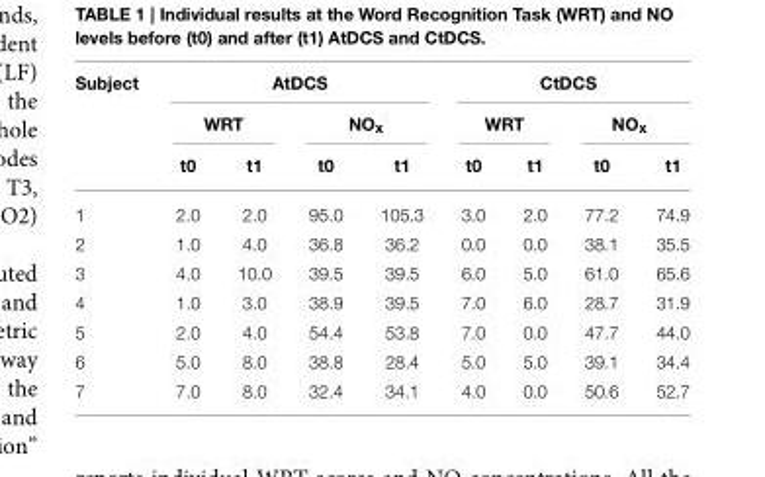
<table><thead><tr><td rowspan="3">Subject</td><td colspan="4">AtDCS</td><td colspan="4">CtDCS</td></tr><tr><td colspan="2">WRT</td><td colspan="2">NOx</td><td colspan="2">WRT</td><td colspan="2">NOx</td></tr><tr><td>t0</td><td>t1</td><td>t0</td><td>t1</td><td>t0</td><td>t1</td><td>t0</td><td>t1</td></tr></thead><tbody><tr><td>1</td><td>2.0</td><td>2.0</td><td>95.0</td><td>105.3</td><td>3.0</td><td>2.0</td><td>77.2</td><td>74.9</td></tr><tr><td>2</td><td>1.0</td><td>4.0</td><td>36.8</td><td>36.2</td><td>0.0</td><td>0.0</td><td>38.1</td><td>35.5</td></tr><tr><td>3</td><td>4.0</td><td>10.0</td><td>39.5</td><td>39.5</td><td>6.0</td><td>5.0</td><td>61.0</td><td>65.6</td></tr><tr><td>4</td><td>1.0</td><td>3.0</td><td>38.9</td><td>39.5</td><td>7.0</td><td>6.0</td><td>28.7</td><td>31.9</td></tr><tr><td>5</td><td>2.0</td><td>4.0</td><td>54.4</td><td>53.8</td><td>7.0</td><td>0.0</td><td>47.7</td><td>44.0</td></tr><tr><td>6</td><td>5.0</td><td>8.0</td><td>38.8</td><td>28.4</td><td>5.0</td><td>5.0</td><td>39.1</td><td>34.4</td></tr><tr><td>7</td><td>7.0</td><td>8.0</td><td>32.4</td><td>34.1</td><td>4.0</td><td>0.0</td><td>50.6</td><td>52.7</td></tr></tbody></table>